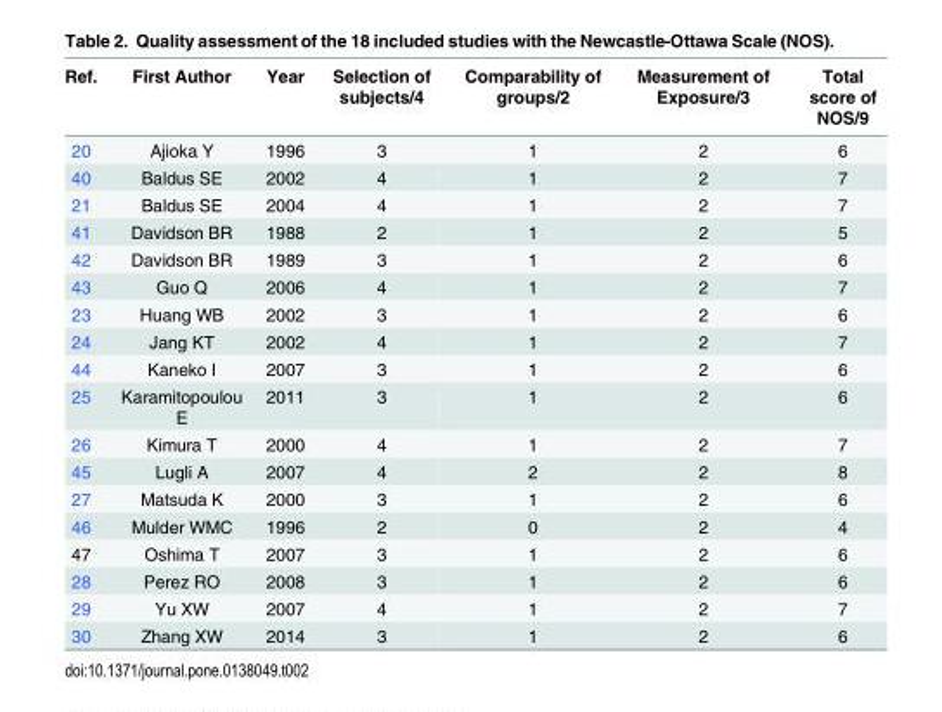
<table><thead><tr><td>Ref.</td><td>First Author</td><td>Year</td><td>Selection of subjects/4</td><td>Comparability of groups/2</td><td>Measurement of Exposure/3</td><td>Total score of NOS/9</td></tr></thead><tbody><tr><td>20</td><td>Ajioka Y</td><td>1996</td><td>3</td><td>1</td><td>2</td><td>6</td></tr><tr><td>40</td><td>Baldus SE</td><td>2002</td><td>4</td><td>1</td><td>2</td><td>7</td></tr><tr><td>21</td><td>Baldus SE</td><td>2004</td><td>4</td><td>1</td><td>2</td><td>7</td></tr><tr><td>41</td><td>Davidson BR</td><td>1988</td><td>2</td><td>1</td><td>2</td><td>5</td></tr><tr><td>42</td><td>Davidson BR</td><td>1989</td><td>3</td><td>1</td><td>2</td><td>6</td></tr><tr><td>43</td><td>Guo Q</td><td>2006</td><td>4</td><td>1</td><td>2</td><td>7</td></tr><tr><td>23</td><td>Huang WB</td><td>2002</td><td>3</td><td>1</td><td>2</td><td>6</td></tr><tr><td>24</td><td>Jang KT</td><td>2002</td><td>4</td><td>1</td><td>2</td><td>7</td></tr><tr><td>44</td><td>Kaneko I</td><td>2007</td><td>3</td><td>1</td><td>2</td><td>6</td></tr><tr><td>25</td><td>Karamitopoulou E</td><td>2011</td><td>3</td><td>1</td><td>2</td><td>6</td></tr><tr><td>26</td><td>Kimura T</td><td>2000</td><td>4</td><td>1</td><td>2</td><td>7</td></tr><tr><td>45</td><td>Lugli A</td><td>2007</td><td>4</td><td>2</td><td>2</td><td>8</td></tr><tr><td>27</td><td>Matsuda K</td><td>2000</td><td>3</td><td>1</td><td>2</td><td>6</td></tr><tr><td>46</td><td>Mulder WMC</td><td>1996</td><td>2</td><td>0</td><td>2</td><td>4</td></tr><tr><td>47</td><td>Oshima T</td><td>2007</td><td>3</td><td>1</td><td>2</td><td>6</td></tr><tr><td>28</td><td>Perez RO</td><td>2008</td><td>3</td><td>1</td><td>2</td><td>6</td></tr><tr><td>29</td><td>Yu XW</td><td>2007</td><td>4</td><td>1</td><td>2</td><td>7</td></tr><tr><td>30</td><td>Zhang XW</td><td>2014</td><td>3</td><td>1</td><td>2</td><td>6</td></tr></tbody></table>